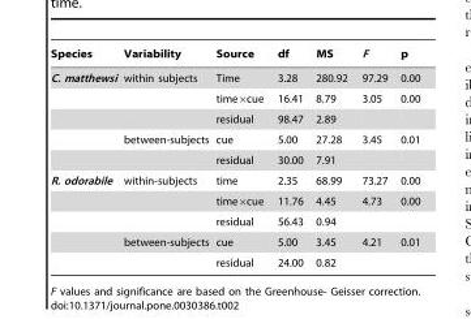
<table><thead><tr><td>Species</td><td>Variability</td><td>Source</td><td>df</td><td>MS</td><td>F</td><td>p</td></tr></thead><tbody><tr><td rowspan="5">C. matthewsi</td><td>within subjects</td><td>Time</td><td>3.28</td><td>280.92</td><td>97.29</td><td>0.00</td></tr><tr><td></td><td>time×cue</td><td>16.41</td><td>8.79</td><td>3.05</td><td>0.00</td></tr><tr><td></td><td>residual</td><td>98.47</td><td>2.89</td><td></td><td></td></tr><tr><td>between-subjects</td><td>cue</td><td>5.00</td><td>27.28</td><td>3.45</td><td>0.01</td></tr><tr><td></td><td>residual</td><td>30.00</td><td>7.91</td><td></td><td></td></tr><tr><td rowspan="5">R. odorabile</td><td>within-subjects</td><td>time</td><td>2.35</td><td>68.99</td><td>73.27</td><td>0.00</td></tr><tr><td></td><td>time×cue</td><td>11.76</td><td>4.45</td><td>4.73</td><td>0.00</td></tr><tr><td></td><td>residual</td><td>56.43</td><td>0.94</td><td></td><td></td></tr><tr><td>between-subjects</td><td>cue</td><td>5.00</td><td>3.45</td><td>4.21</td><td>0.01</td></tr><tr><td></td><td>residual</td><td>24.00</td><td>0.82</td><td></td><td></td></tr></tbody></table>